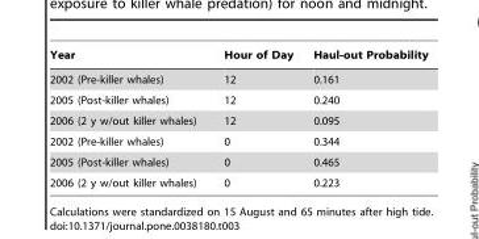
<table><thead><tr><td>Year</td><td>Hour of Day</td><td>Haul-out Probability</td></tr></thead><tbody><tr><td>2002 (Pre-killer whales)</td><td>12</td><td>0.161</td></tr><tr><td>2005 (Post-killer whales)</td><td>12</td><td>0.240</td></tr><tr><td>2006 (2 y w/out killer whales)</td><td>12</td><td>0.095</td></tr><tr><td>2002 (Pre-killer whales)</td><td>0</td><td>0.344</td></tr><tr><td>2005 (Post-killer whales)</td><td>0</td><td>0.465</td></tr><tr><td>2006 (2 y w/out killer whales)</td><td>0</td><td>0.223</td></tr></tbody></table>